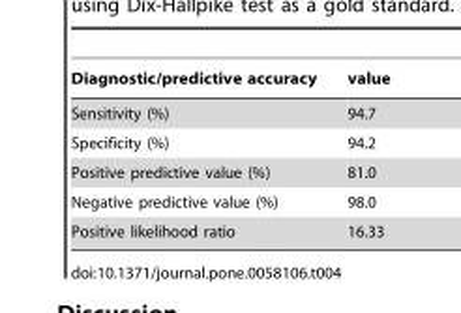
<table><thead><tr><td>Diagnostic/predictive accuracy</td><td>value</td></tr></thead><tbody><tr><td>Sensitivity (%)</td><td>94.7</td></tr><tr><td>Specificity (%)</td><td>94.2</td></tr><tr><td>Positive predictive value (%)</td><td>81.0</td></tr><tr><td>Negative predictive value (%)</td><td>98.0</td></tr><tr><td>Positive likelihood ratio</td><td>16.33</td></tr></tbody></table>